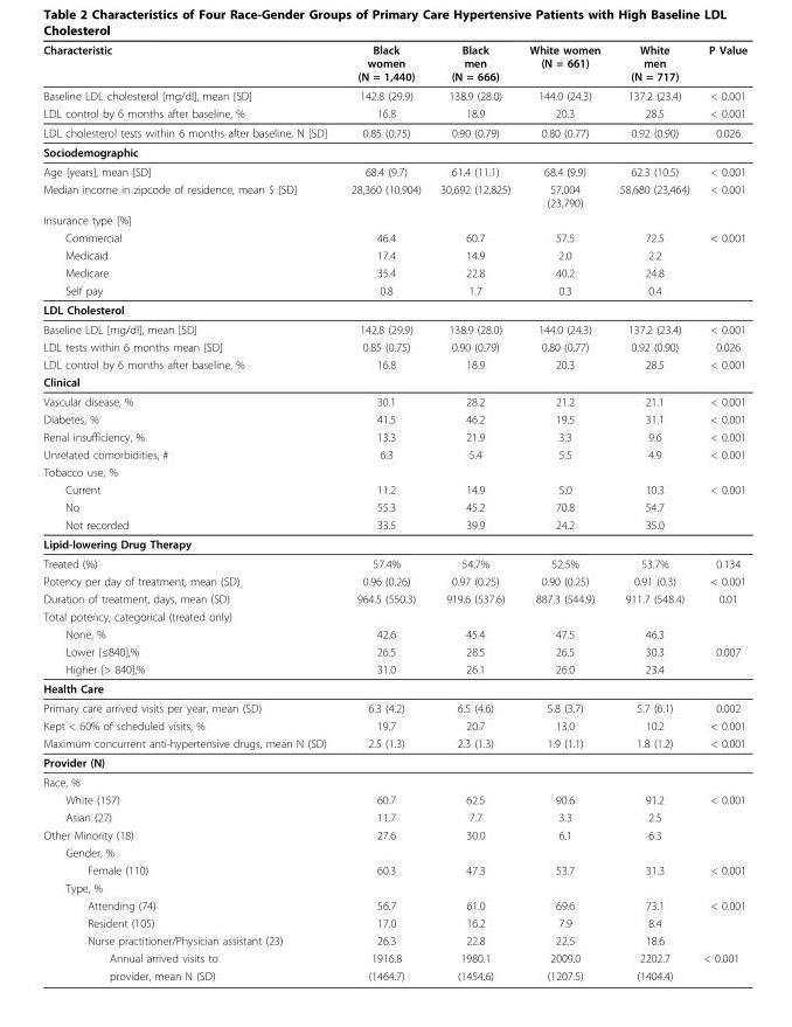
<table><thead><tr><td>Characteristic</td><td>Black women (N = 1,440)</td><td>Black men (N = 666)</td><td>White women (N = 661)</td><td>White men (N = 717)</td><td>P Value</td></tr></thead><tbody><tr><td>Baseline LDL cholesterol [mg/dl], mean [SD]</td><td>142.8 (29.9)</td><td>138.9 (28.0)</td><td>144.0 (24.3)</td><td>137.2 (23.4)</td><td>&lt; 0.001</td></tr><tr><td>LDL control by 6 months after baseline, %</td><td>16.8</td><td>18.9</td><td>20.3</td><td>28.5</td><td>&lt; 0.001</td></tr><tr><td>LDL cholesterol tests within 6 months after baseline, N [SD]</td><td>0.85 (0.75)</td><td>0.90 (0.79)</td><td>0.80 (0.77)</td><td>0.92 (0.90)</td><td>0.026</td></tr><tr><td colspan="6">Sociodemographic</td></tr><tr><td>Age [years], mean [SD]</td><td>68.4 (9.7)</td><td>61.4 (11.1)</td><td>68.4 (9.9)</td><td>62.3 (10.5)</td><td>&lt; 0.001</td></tr><tr><td>Median income in zipcode of residence, mean $ [SD]</td><td>28,360 (10,904)</td><td>30,692 (12,825)</td><td>57,004 (23,790)</td><td>58,680 (23,464)</td><td>&lt; 0.001</td></tr><tr><td colspan="6">Insurance type [%]</td></tr><tr><td>Commercial</td><td>46.4</td><td>60.7</td><td>57.5</td><td>72.5</td><td>&lt; 0.001</td></tr><tr><td>Medicaid</td><td>17.4</td><td>14.9</td><td>2.0</td><td>2.2</td><td></td></tr><tr><td>Medicare</td><td>35.4</td><td>22.8</td><td>40.2</td><td>24.8</td><td></td></tr><tr><td>Self pay</td><td>0.8</td><td>1.7</td><td>0.3</td><td>0.4</td><td></td></tr><tr><td colspan="6">LDL Cholesterol</td></tr><tr><td>Baseline LDL [mg/dl], mean [SD]</td><td>142.8 (29.9)</td><td>138.9 (28.0)</td><td>144.0 (24.3)</td><td>137.2 (23.4)</td><td>&lt; 0.001</td></tr><tr><td>LDL tests within 6 months mean [SD]</td><td>0.85 (0.75)</td><td>0.90 (0.79)</td><td>0.80 (0.77)</td><td>0.92 (0.90)</td><td>0.026</td></tr><tr><td>LDL control by 6 months after baseline, %</td><td>16.8</td><td>18.9</td><td>20.3</td><td>28.5</td><td>&lt; 0.001</td></tr><tr><td colspan="6">Clinical</td></tr><tr><td>Vascular disease, %</td><td>30.1</td><td>28.2</td><td>21.2</td><td>21.1</td><td>&lt; 0.001</td></tr><tr><td>Diabetes, %</td><td>41.5</td><td>46.2</td><td>19.5</td><td>31.1</td><td>&lt; 0.001</td></tr><tr><td>Renal insufficiency, %</td><td>13.3</td><td>21.9</td><td>3.3</td><td>9.6</td><td>&lt; 0.001</td></tr><tr><td>Unrelated comorbidities, #</td><td>6.3</td><td>5.4</td><td>5.5</td><td>4.9</td><td>&lt; 0.001</td></tr><tr><td colspan="6">Tobacco use, %</td></tr><tr><td>Current</td><td>11.2</td><td>14.9</td><td>5.0</td><td>10.3</td><td>&lt; 0.001</td></tr><tr><td>No</td><td>55.3</td><td>45.2</td><td>70.8</td><td>54.7</td><td></td></tr><tr><td>Not recorded</td><td>33.5</td><td>39.9</td><td>24.2</td><td>35.0</td><td></td></tr><tr><td colspan="6">Lipid-lowering Drug Therapy</td></tr><tr><td>Treated (%)</td><td>57.4%</td><td>54.7%</td><td>52.5%</td><td>53.7%</td><td>0.134</td></tr><tr><td>Potency per day of treatment, mean (SD)</td><td>0.96 (0.26)</td><td>0.97 (0.25)</td><td>0.90 (0.25)</td><td>0.91 (0.3)</td><td>&lt; 0.001</td></tr><tr><td>Duration of treatment, days, mean (SD)</td><td>964.5 (550.3)</td><td>919.6 (537.6)</td><td>887.3 (544.9)</td><td>911.7 (548.4)</td><td>0.01</td></tr><tr><td colspan="6">Total potency, categorical (treated only)</td></tr><tr><td>None, %</td><td>42.6</td><td>45.4</td><td>47.5</td><td>46.3</td><td></td></tr><tr><td>Lower [≤840],%</td><td>26.5</td><td>28.5</td><td>26.5</td><td>30.3</td><td>0.007</td></tr><tr><td>Higher [&gt; 840],%</td><td>31.0</td><td>26.1</td><td>26.0</td><td>23.4</td><td></td></tr><tr><td colspan="6">Health Care</td></tr><tr><td>Primary care arrived visits per year, mean (SD)</td><td>6.3 (4.2)</td><td>6.5 (4.6)</td><td>5.8 (3.7)</td><td>5.7 (6.1)</td><td>0.002</td></tr><tr><td>Kept &lt; 60% of scheduled visits, %</td><td>19.7</td><td>20.7</td><td>13.0</td><td>10.2</td><td>&lt; 0.001</td></tr><tr><td>Maximum concurrent anti-hypertensive drugs, mean N (SD)</td><td>2.5 (1.3)</td><td>2.3 (1.3)</td><td>1.9 (1.1)</td><td>1.8 (1.2)</td><td>&lt; 0.001</td></tr><tr><td colspan="6">Provider (N)</td></tr><tr><td colspan="6">Race, %</td></tr><tr><td>White (157)</td><td>60.7</td><td>62.5</td><td>90.6</td><td>91.2</td><td>&lt; 0.001</td></tr><tr><td>Asian (27)</td><td>11.7</td><td>7.7</td><td>3.3</td><td>2.5</td><td></td></tr><tr><td>Other Minority (18)</td><td>27.6</td><td>30.0</td><td>6.1</td><td>6.3</td><td></td></tr><tr><td colspan="6">Gender, %</td></tr><tr><td>Female (110)</td><td>60.3</td><td>47.3</td><td>53.7</td><td>31.3</td><td>&lt; 0.001</td></tr><tr><td colspan="6">Type, %</td></tr><tr><td>Attending (74)</td><td>56.7</td><td>61.0</td><td>69.6</td><td>73.1</td><td>&lt; 0.001</td></tr><tr><td>Resident (105)</td><td>17.0</td><td>16.2</td><td>7.9</td><td>8.4</td><td></td></tr><tr><td>Nurse practitioner/Physician assistant (23)</td><td>26.3</td><td>22.8</td><td>22.5</td><td>18.6</td><td></td></tr><tr><td>Annual arrived visits to</td><td>1916.8</td><td>1980.1</td><td>2009.0</td><td>2202.7</td><td>&lt; 0.001</td></tr><tr><td>provider, mean N (SD)</td><td>(1464.7)</td><td>(1454.6)</td><td>(1207.5)</td><td>(1404.4)</td><td></td></tr></tbody></table>